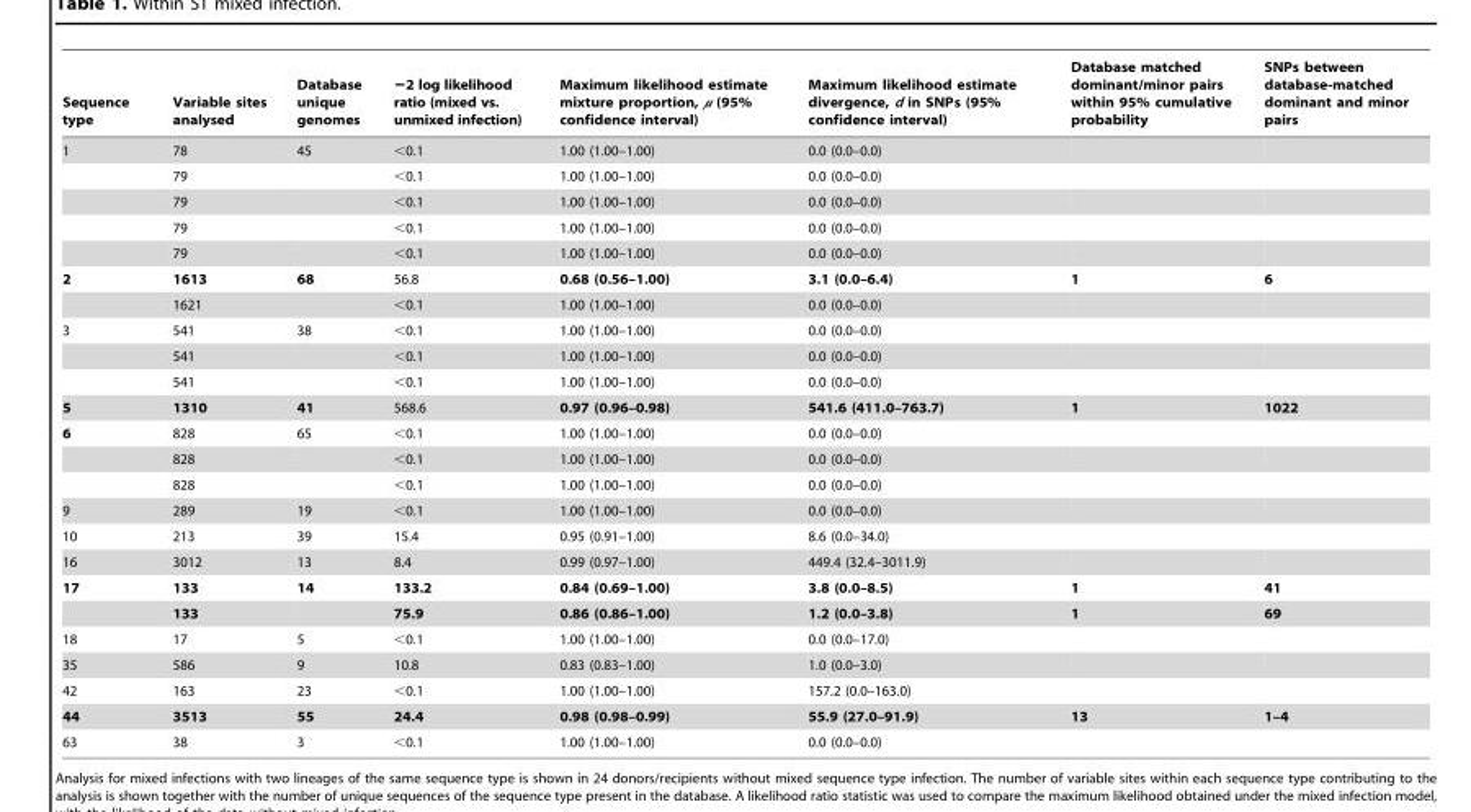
<table><thead><tr><td>Sequence type</td><td>Variable sites analysed</td><td>Database unique genomes</td><td>−2 log likelihood ratio (mixed vs. unmixed infection)</td><td>Maximum likelihood estimate mixture proportion, μ (95% confidence interval)</td><td>Maximum likelihood estimate divergence, d in SNPs (95% confidence interval)</td><td>Database matched dominant/minor pairs within 95% cumulative probability</td><td>SNPs between database-matched dominant and minor pairs</td></tr></thead><tbody><tr><td rowspan="5">1</td><td>78</td><td>45</td><td>&lt;0.1</td><td>1.00 (1.00–1.00)</td><td>0.0 (0.0–0.0)</td><td></td><td></td></tr><tr><td>79</td><td></td><td>&lt;0.1</td><td>1.00 (1.00–1.00)</td><td>0.0 (0.0–0.0)</td><td></td><td></td></tr><tr><td>79</td><td></td><td>&lt;0.1</td><td>1.00 (1.00–1.00)</td><td>0.0 (0.0–0.0)</td><td></td><td></td></tr><tr><td>79</td><td></td><td>&lt;0.1</td><td>1.00 (1.00–1.00)</td><td>0.0 (0.0–0.0)</td><td></td><td></td></tr><tr><td>79</td><td></td><td>&lt;0.1</td><td>1.00 (1.00–1.00)</td><td>0.0 (0.0–0.0)</td><td></td><td></td></tr><tr><td rowspan="2">2</td><td>1613</td><td>68</td><td>56.8</td><td>0.68 (0.56–1.00)</td><td>3.1 (0.0–6.4)</td><td>1</td><td>6</td></tr><tr><td>1621</td><td></td><td>&lt;0.1</td><td>1.00 (1.00–1.00)</td><td>0.0 (0.0–0.0)</td><td></td><td></td></tr><tr><td rowspan="3">3</td><td>541</td><td>38</td><td>&lt;0.1</td><td>1.00 (1.00–1.00)</td><td>0.0 (0.0–0.0)</td><td></td><td></td></tr><tr><td>541</td><td></td><td>&lt;0.1</td><td>1.00 (1.00–1.00)</td><td>0.0 (0.0–0.0)</td><td></td><td></td></tr><tr><td>541</td><td></td><td>&lt;0.1</td><td>1.00 (1.00–1.00)</td><td>0.0 (0.0–0.0)</td><td></td><td></td></tr><tr><td>5</td><td>1310</td><td>41</td><td>568.6</td><td>0.97 (0.96–0.98)</td><td>541.6 (411.0–763.7)</td><td>1</td><td>1022</td></tr><tr><td rowspan="3">6</td><td>828</td><td>65</td><td>&lt;0.1</td><td>1.00 (1.00–1.00)</td><td>0.0 (0.0–0.0)</td><td></td><td></td></tr><tr><td>828</td><td></td><td>&lt;0.1</td><td>1.00 (1.00–1.00)</td><td>0.0 (0.0–0.0)</td><td></td><td></td></tr><tr><td>828</td><td></td><td>&lt;0.1</td><td>1.00 (1.00–1.00)</td><td>0.0 (0.0–0.0)</td><td></td><td></td></tr><tr><td>9</td><td>289</td><td>19</td><td>&lt;0.1</td><td>1.00 (1.00–1.00)</td><td>0.0 (0.0–0.0)</td><td></td><td></td></tr><tr><td>10</td><td>213</td><td>39</td><td>15.4</td><td>0.95 (0.91–1.00)</td><td>8.6 (0.0–34.0)</td><td></td><td></td></tr><tr><td>16</td><td>3012</td><td>13</td><td>8.4</td><td>0.99 (0.97–1.00)</td><td>449.4 (32.4–3011.9)</td><td></td><td></td></tr><tr><td rowspan="2">17</td><td>133</td><td>14</td><td>133.2</td><td>0.84 (0.69–1.00)</td><td>3.8 (0.0–8.5)</td><td>1</td><td>41</td></tr><tr><td>133</td><td></td><td>75.9</td><td>0.86 (0.86–1.00)</td><td>1.2 (0.0–3.8)</td><td>1</td><td>69</td></tr><tr><td>18</td><td>17</td><td>5</td><td>&lt;0.1</td><td>1.00 (1.00–1.00)</td><td>0.0 (0.0–17.0)</td><td></td><td></td></tr><tr><td>35</td><td>586</td><td>9</td><td>10.8</td><td>0.83 (0.83–1.00)</td><td>1.0 (0.0–3.0)</td><td></td><td></td></tr><tr><td>42</td><td>163</td><td>23</td><td>&lt;0.1</td><td>1.00 (1.00–1.00)</td><td>157.2 (0.0–163.0)</td><td></td><td></td></tr><tr><td>44</td><td>3513</td><td>55</td><td>24.4</td><td>0.98 (0.98–0.99)</td><td>55.9 (27.0–91.9)</td><td>13</td><td>1–4</td></tr><tr><td>63</td><td>38</td><td>3</td><td>&lt;0.1</td><td>1.00 (1.00–1.00)</td><td>0.0 (0.0–0.0)</td><td></td><td></td></tr></tbody></table>